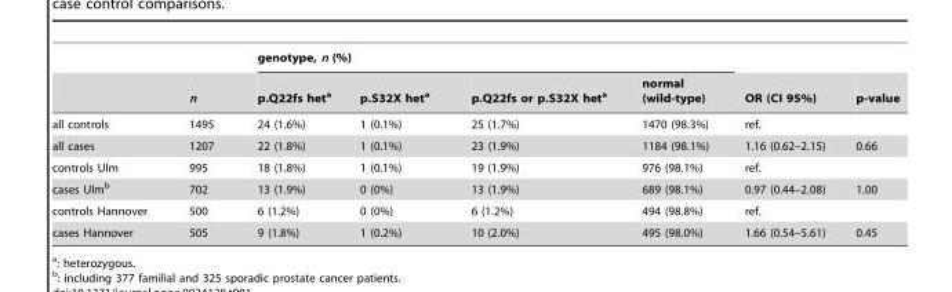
<table><thead><tr><td rowspan="2"></td><td rowspan="2">n</td><td colspan="4">genotype, n (%)</td><td rowspan="2">OR (CI 95%)</td><td rowspan="2">p-value</td></tr><tr><td>p.Q22fs het<sup>a</sup></td><td>p.S32X het<sup>a</sup></td><td>p.Q22fs or p.S32X het<sup>a</sup></td><td>normal (wild-type)</td></tr></thead><tbody><tr><td>all controls</td><td>1495</td><td>24 (1.6%)</td><td>1 (0.1%)</td><td>25 (1.7%)</td><td>1470 (98.3%)</td><td>ref.</td><td></td></tr><tr><td>all cases</td><td>1207</td><td>22 (1.8%)</td><td>1 (0.1%)</td><td>23 (1.9%)</td><td>1184 (98.1%)</td><td>1.16 (0.62–2.15)</td><td>0.66</td></tr><tr><td>controls Ulm</td><td>995</td><td>18 (1.8%)</td><td>1 (0.1%)</td><td>19 (1.9%)</td><td>976 (98.1%)</td><td>ref.</td><td></td></tr><tr><td>cases Ulm<sup>b</sup></td><td>702</td><td>13 (1.9%)</td><td>0 (0%)</td><td>13 (1.9%)</td><td>689 (98.1%)</td><td>0.97 (0.44–2.08)</td><td>1.00</td></tr><tr><td>controls Hannover</td><td>500</td><td>6 (1.2%)</td><td>0 (0%)</td><td>6 (1.2%)</td><td>494 (98.8%)</td><td>ref.</td><td></td></tr><tr><td>cases Hannover</td><td>505</td><td>9 (1.8%)</td><td>1 (0.2%)</td><td>10 (2.0%)</td><td>495 (98.0%)</td><td>1.66 (0.54–5.61)</td><td>0.45</td></tr></tbody></table>